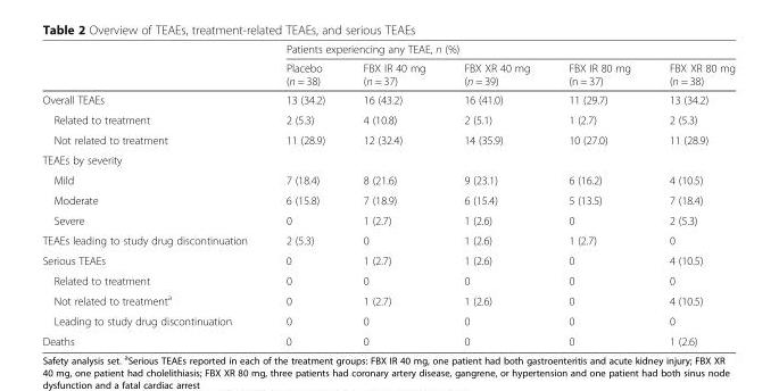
<table><thead><tr><td rowspan="2"></td><td colspan="5">Patients experiencing any TEAE, n (%)</td></tr><tr><td>Placebo (n = 38)</td><td>FBX IR 40 mg (n = 37)</td><td>FBX XR 40 mg (n = 39)</td><td>FBX IR 80 mg (n = 37)</td><td>FBX XR 80 mg (n = 38)</td></tr></thead><tbody><tr><td>Overall TEAEs</td><td>13 (34.2)</td><td>16 (43.2)</td><td>16 (41.0)</td><td>11 (29.7)</td><td>13 (34.2)</td></tr><tr><td>Related to treatment</td><td>2 (5.3)</td><td>4 (10.8)</td><td>2 (5.1)</td><td>1 (2.7)</td><td>2 (5.3)</td></tr><tr><td>Not related to treatment</td><td>11 (28.9)</td><td>12 (32.4)</td><td>14 (35.9)</td><td>10 (27.0)</td><td>11 (28.9)</td></tr><tr><td colspan="6">TEAEs by severity</td></tr><tr><td>Mild</td><td>7 (18.4)</td><td>8 (21.6)</td><td>9 (23.1)</td><td>6 (16.2)</td><td>4 (10.5)</td></tr><tr><td>Moderate</td><td>6 (15.8)</td><td>7 (18.9)</td><td>6 (15.4)</td><td>5 (13.5)</td><td>7 (18.4)</td></tr><tr><td>Severe</td><td>0</td><td>1 (2.7)</td><td>1 (2.6)</td><td>0</td><td>2 (5.3)</td></tr><tr><td>TEAEs leading to study drug discontinuation</td><td>2 (5.3)</td><td>0</td><td>1 (2.6)</td><td>1 (2.7)</td><td>0</td></tr><tr><td>Serious TEAEs</td><td>0</td><td>1 (2.7)</td><td>1 (2.6)</td><td>0</td><td>4 (10.5)</td></tr><tr><td>Related to treatment</td><td>0</td><td>0</td><td>0</td><td>0</td><td>0</td></tr><tr><td>Not related to treatment<sup>a</sup></td><td>0</td><td>1 (2.7)</td><td>1 (2.6)</td><td>0</td><td>4 (10.5)</td></tr><tr><td>Leading to study drug discontinuation</td><td>0</td><td>0</td><td>0</td><td>0</td><td>0</td></tr><tr><td>Deaths</td><td>0</td><td>0</td><td>0</td><td>0</td><td>1 (2.6)</td></tr></tbody></table>